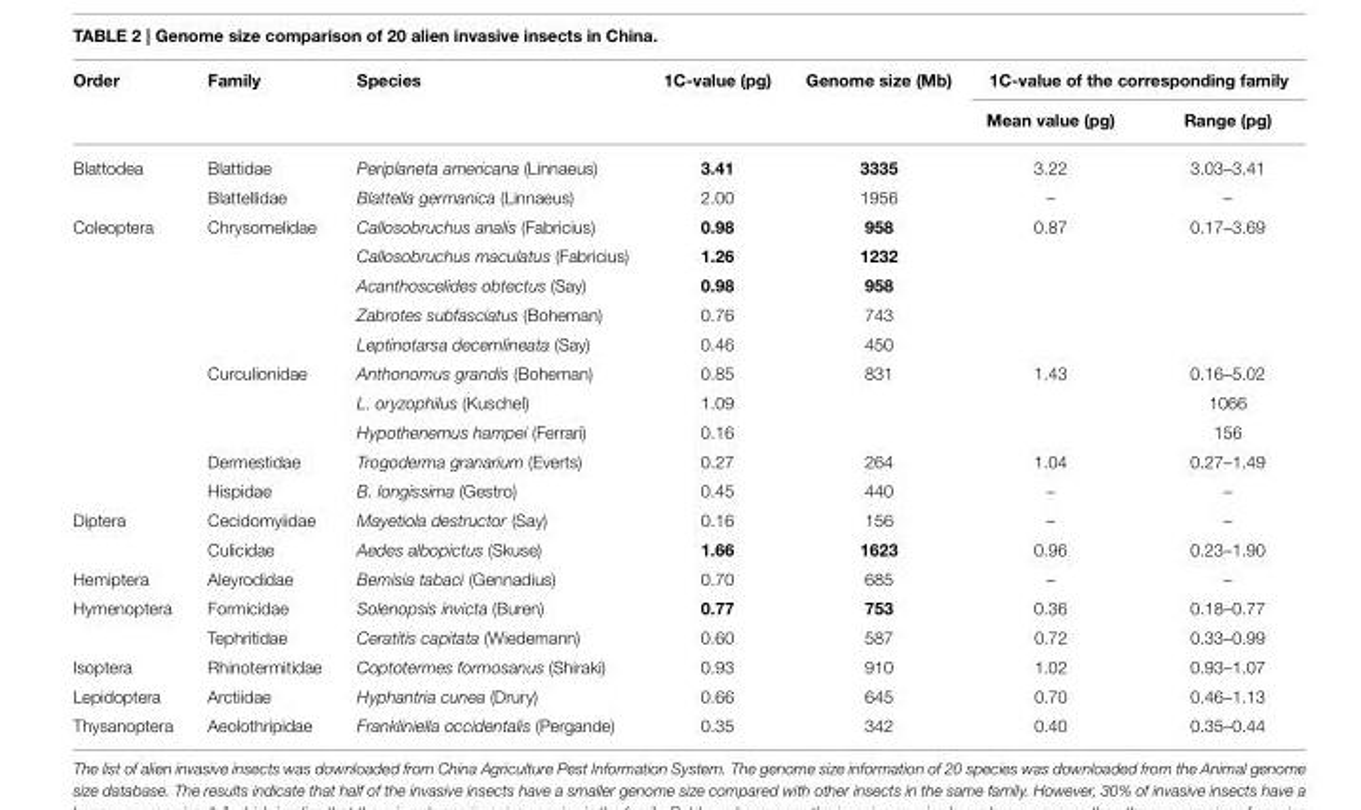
<table><thead><tr><td rowspan="2">Order</td><td rowspan="2">Family</td><td rowspan="2">Species</td><td rowspan="2">1C-value (pg)</td><td rowspan="2">Genome size (Mb)</td><td colspan="2">1C-value of the corresponding family</td></tr><tr><td>Mean value (pg)</td><td>Range (pg)</td></tr></thead><tbody><tr><td rowspan="2">Blattodea</td><td>Blattidae</td><td>Periplaneta americana (Linnaeus)</td><td>3.41</td><td>3335</td><td>3.22</td><td>3.03–3.41</td></tr><tr><td>Blattellidae</td><td>Blattella germanica (Linnaeus)</td><td>2.00</td><td>1956</td><td>–</td><td>–</td></tr><tr><td rowspan="10">Coleoptera</td><td>Chrysomelidae</td><td>Callosobruchus analis (Fabricius)</td><td>0.98</td><td>958</td><td>0.87</td><td>0.17–3.69</td></tr><tr><td></td><td>Callosobruchus maculatus (Fabricius)</td><td>1.26</td><td>1232</td><td></td><td></td></tr><tr><td></td><td>Acanthoscelides obtectus (Say)</td><td>0.98</td><td>958</td><td></td><td></td></tr><tr><td></td><td>Zabrotes subfasciatus (Boheman)</td><td>0.76</td><td>743</td><td></td><td></td></tr><tr><td></td><td>Leptinotarsa decemlineata (Say)</td><td>0.46</td><td>450</td><td></td><td></td></tr><tr><td>Curculionidae</td><td>Anthonomus grandis (Boheman)</td><td>0.85</td><td>831</td><td>1.43</td><td>0.16–5.02</td></tr><tr><td></td><td>L. oryzophilus (Kuschel)</td><td>1.09</td><td></td><td></td><td>1066</td></tr><tr><td></td><td>Hypothenemus hampei (Ferrari)</td><td>0.16</td><td></td><td></td><td>156</td></tr><tr><td>Dermestidae</td><td>Trogoderma granarium (Everts)</td><td>0.27</td><td>264</td><td>1.04</td><td>0.27–1.49</td></tr><tr><td>Hispidae</td><td>B. longissima (Gestro)</td><td>0.45</td><td>440</td><td>–</td><td>–</td></tr><tr><td rowspan="2">Diptera</td><td>Cecidomyiidae</td><td>Mayetiola destructor (Say)</td><td>0.16</td><td>156</td><td>–</td><td>–</td></tr><tr><td>Culicidae</td><td>Aedes albopictus (Skuse)</td><td>1.66</td><td>1623</td><td>0.96</td><td>0.23–1.90</td></tr><tr><td>Hemiptera</td><td>Aleyrodidae</td><td>Bemisia tabaci (Gennadius)</td><td>0.70</td><td>685</td><td>–</td><td>–</td></tr><tr><td rowspan="2">Hymenoptera</td><td>Formicidae</td><td>Solenopsis invicta (Buren)</td><td>0.77</td><td>753</td><td>0.36</td><td>0.18–0.77</td></tr><tr><td>Tephritidae</td><td>Ceratitis capitata (Wiedemann)</td><td>0.60</td><td>587</td><td>0.72</td><td>0.33–0.99</td></tr><tr><td>Isoptera</td><td>Rhinotermitidae</td><td>Coptotermes formosanus (Shiraki)</td><td>0.93</td><td>910</td><td>1.02</td><td>0.93–1.07</td></tr><tr><td>Lepidoptera</td><td>Arctiidae</td><td>Hyphantria cunea (Drury)</td><td>0.66</td><td>645</td><td>0.70</td><td>0.46–1.13</td></tr><tr><td>Thysanoptera</td><td>Aeolothripidae</td><td>Frankliniella occidentalis (Pergande)</td><td>0.35</td><td>342</td><td>0.40</td><td>0.35–0.44</td></tr></tbody></table>